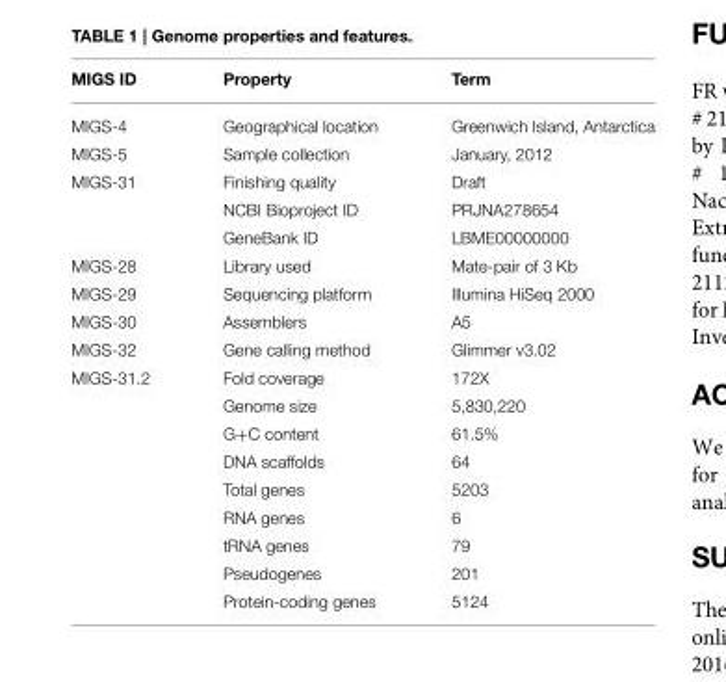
<table><thead><tr><td>MIGS ID</td><td>Property</td><td>Term</td></tr></thead><tbody><tr><td>MIGS-4</td><td>Geographical location</td><td>Greenwich Island, Antarctica</td></tr><tr><td>MIGS-5</td><td>Sample collection</td><td>January, 2012</td></tr><tr><td rowspan="3">MIGS-31</td><td>Finishing quality</td><td>Draft</td></tr><tr><td>NCBI Bioproject ID</td><td>PRJNA278654</td></tr><tr><td>GeneBank ID</td><td>LBME00000000</td></tr><tr><td>MIGS-28</td><td>Library used</td><td>Mate-pair of 3 Kb</td></tr><tr><td>MIGS-29</td><td>Sequencing platform</td><td>Illumina HiSeq 2000</td></tr><tr><td>MIGS-30</td><td>Assemblers</td><td>A5</td></tr><tr><td>MIGS-32</td><td>Gene calling method</td><td>Glimmer v3.02</td></tr><tr><td rowspan="9">MIGS-31.2</td><td>Fold coverage</td><td>172X</td></tr><tr><td>Genome size</td><td>5,830,220</td></tr><tr><td>G+C content</td><td>61.5%</td></tr><tr><td>DNA scaffolds</td><td>64</td></tr><tr><td>Total genes</td><td>5203</td></tr><tr><td>RNA genes</td><td>6</td></tr><tr><td>tRNA genes</td><td>79</td></tr><tr><td>Pseudogenes</td><td>201</td></tr><tr><td>Protein-coding genes</td><td>5124</td></tr></tbody></table>